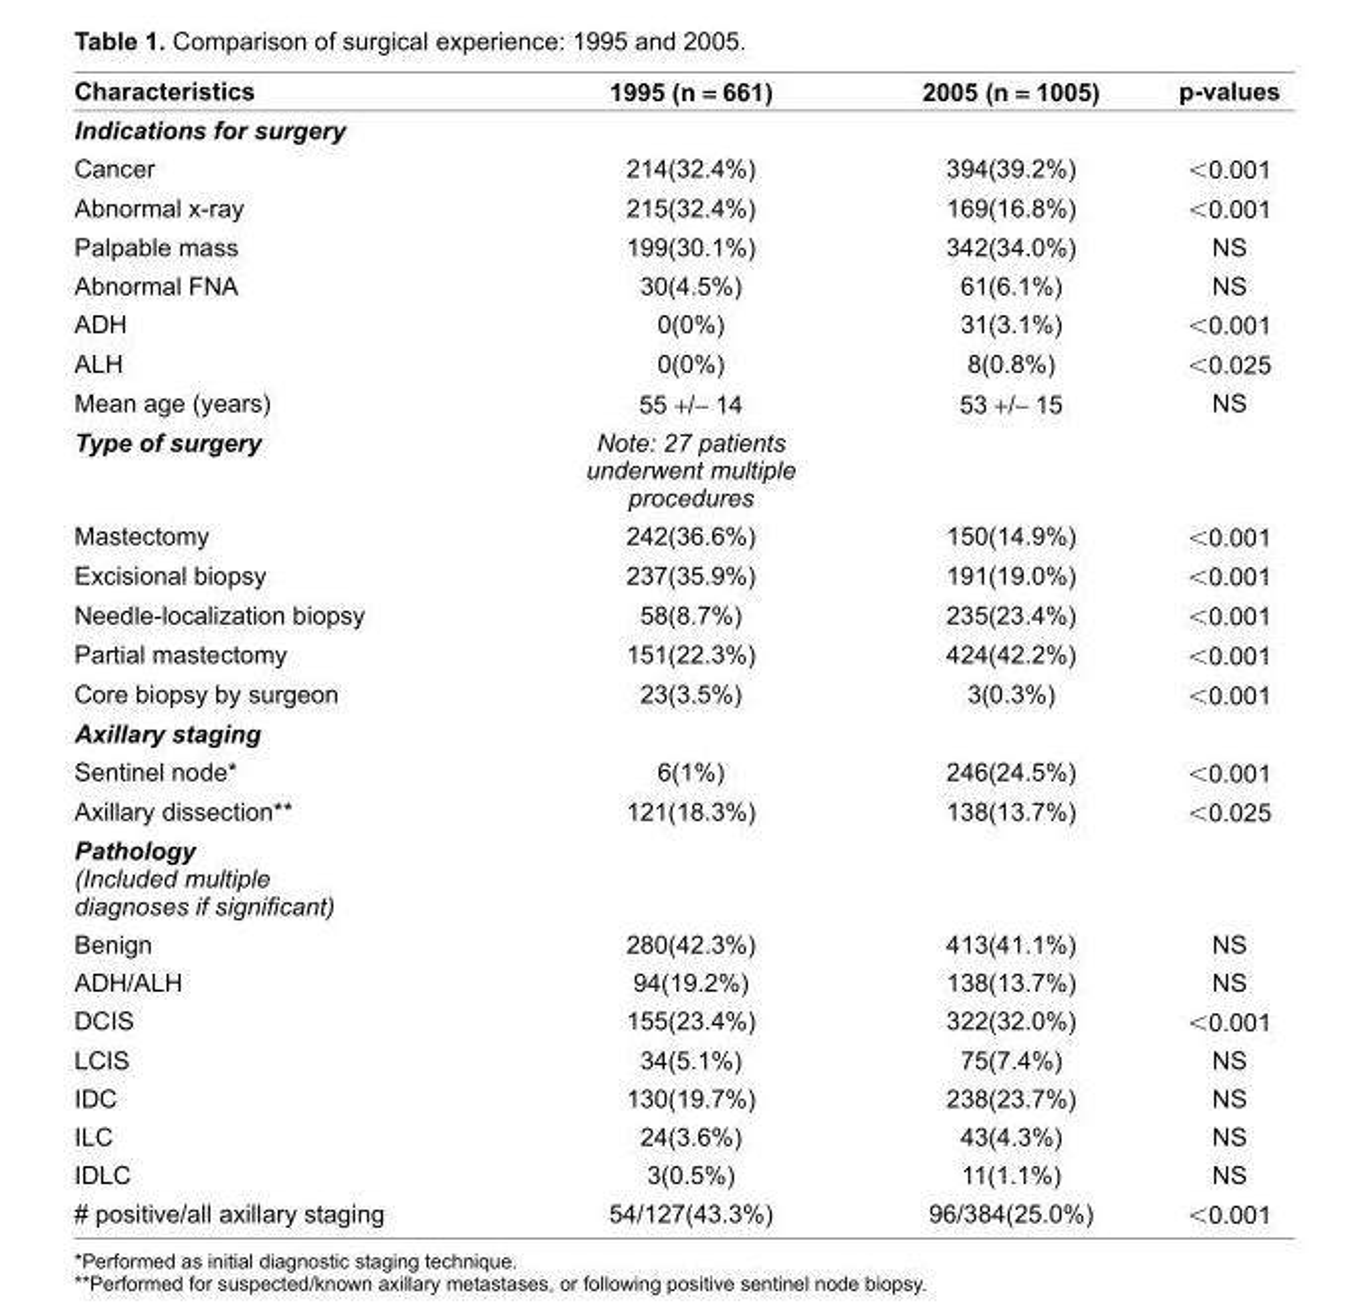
<table><thead><tr><td>Characteristics</td><td>1995 (n = 661)</td><td>2005 (n = 1005)</td><td>p-values</td></tr></thead><tbody><tr><td colspan="4">Indications for surgery</td></tr><tr><td>Cancer</td><td>214(32.4%)</td><td>394(39.2%)</td><td>&lt;0.001</td></tr><tr><td>Abnormal x-ray</td><td>215(32.4%)</td><td>169(16.8%)</td><td>&lt;0.001</td></tr><tr><td>Palpable mass</td><td>199(30.1%)</td><td>342(34.0%)</td><td>NS</td></tr><tr><td>Abnormal FNA</td><td>30(4.5%)</td><td>61(6.1%)</td><td>NS</td></tr><tr><td>ADH</td><td>0(0%)</td><td>31(3.1%)</td><td>&lt;0.001</td></tr><tr><td>ALH</td><td>0(0%)</td><td>8(0.8%)</td><td>&lt;0.025</td></tr><tr><td>Mean age (years)</td><td>55 +/− 14</td><td>53 +/− 15</td><td>NS</td></tr><tr><td>Type of surgery</td><td>Note: 27 patients underwent multiple procedures</td><td></td><td></td></tr><tr><td>Mastectomy</td><td>242(36.6%)</td><td>150(14.9%)</td><td>&lt;0.001</td></tr><tr><td>Excisional biopsy</td><td>237(35.9%)</td><td>191(19.0%)</td><td>&lt;0.001</td></tr><tr><td>Needle-localization biopsy</td><td>58(8.7%)</td><td>235(23.4%)</td><td>&lt;0.001</td></tr><tr><td>Partial mastectomy</td><td>151(22.3%)</td><td>424(42.2%)</td><td>&lt;0.001</td></tr><tr><td>Core biopsy by surgeon</td><td>23(3.5%)</td><td>3(0.3%)</td><td>&lt;0.001</td></tr><tr><td colspan="4">Axillary staging</td></tr><tr><td>Sentinel node*</td><td>6(1%)</td><td>246(24.5%)</td><td>&lt;0.001</td></tr><tr><td>Axillary dissection**</td><td>121(18.3%)</td><td>138(13.7%)</td><td>&lt;0.025</td></tr><tr><td colspan="4">Pathology (Included multiple diagnoses if signifi cant)</td></tr><tr><td>Benign</td><td>280(42.3%)</td><td>413(41.1%)</td><td>NS</td></tr><tr><td>ADH/ALH</td><td>94(19.2%)</td><td>138(13.7%)</td><td>NS</td></tr><tr><td>DCIS</td><td>155(23.4%)</td><td>322(32.0%)</td><td>&lt;0.001</td></tr><tr><td>LCIS</td><td>34(5.1%)</td><td>75(7.4%)</td><td>NS</td></tr><tr><td>IDC</td><td>130(19.7%)</td><td>238(23.7%)</td><td>NS</td></tr><tr><td>ILC</td><td>24(3.6%)</td><td>43(4.3%)</td><td>NS</td></tr><tr><td>IDLC</td><td>3(0.5%)</td><td>11(1.1%)</td><td>NS</td></tr><tr><td># positive/all axillary staging</td><td>54/127(43.3%)</td><td>96/384(25.0%)</td><td>&lt;0.001</td></tr></tbody></table>